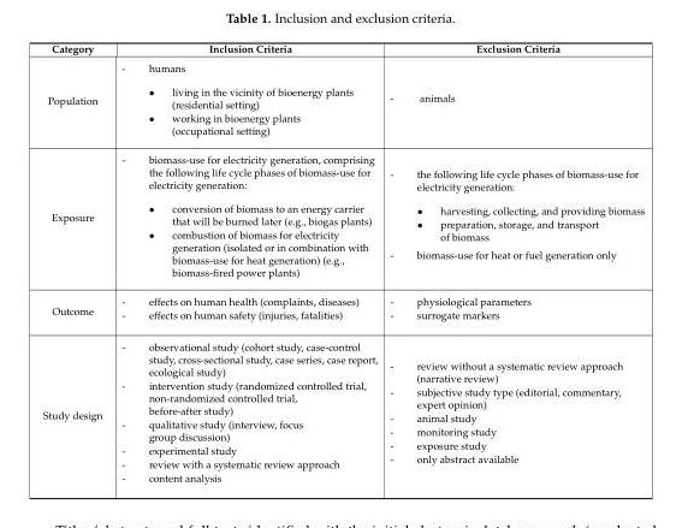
<table><thead><tr><td>Category</td><td>Inclusion Criteria</td><td>Exclusion Criteria</td></tr></thead><tbody><tr><td>Population</td><td>- humans • living in the vicinity of bioenergy plants (residential setting) • working in bioenergy plants (occupational setting)</td><td>- animals</td></tr><tr><td>Exposure</td><td>- biomass-use for electricity generation, comprising the following life cycle phases of biomass-use for electricity generation: • conversion of biomass to an energy carrier that will be burned later (e.g., biogas plants) • combustion of biomass for electricity generation (isolated or in combination with biomass-use for heat generation) (e.g., biomass-fired power plants)</td><td>- the following life cycle phases of biomass-use for electricity generation: • harvesting, collecting, and providing biomass • preparation, storage, and transport of biomass - biomass-use for heat or fuel generation only</td></tr><tr><td>Outcome</td><td>- effects on human health (complaints, diseases) - effects on human safety (injuries, fatalities)</td><td>- physiological parameters - surrogate markers</td></tr><tr><td>Study design</td><td>- observational study (cohort study, case-control study, cross-sectional study, case series, case report, ecological study) - intervention study (randomized controlled trial, non-randomized controlled trial, before-after study) - qualitative study (interview, focus group discussion) - experimental study - review with a systematic review approach - content analysis</td><td>- review without a systematic review approach (narrative review) - subjective study type (editorial, commentary, expert opinion) - animal study - monitoring study - exposure study - only abstract available</td></tr></tbody></table>